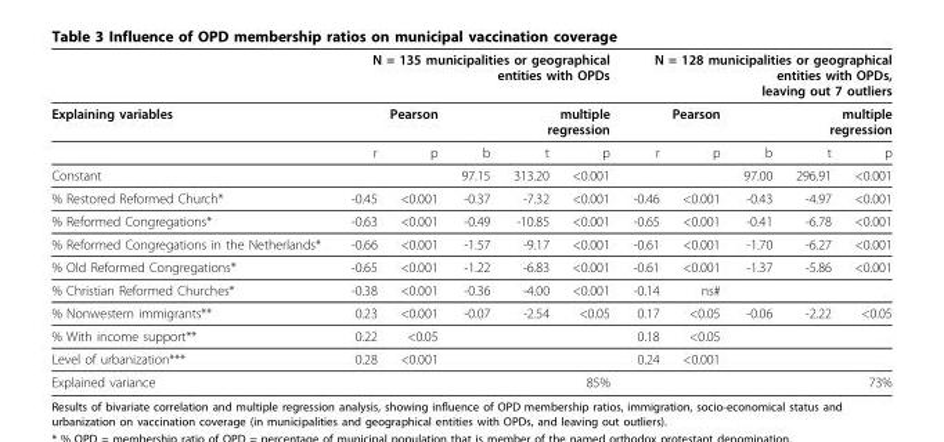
<table><thead><tr><td rowspan="3">Explaining variables</td><td colspan="5">N = 135 municipalities or geographical entities with OPDs</td><td colspan="5">N = 128 municipalities or geographical entities with OPDs, leaving out 7 outliers</td></tr><tr><td colspan="2">Pearson</td><td colspan="3">multiple regression</td><td colspan="2">Pearson</td><td colspan="3">multiple regression</td></tr><tr><td>r</td><td>p</td><td>b</td><td>t</td><td>p</td><td>r</td><td>p</td><td>b</td><td>t</td><td>p</td></tr></thead><tbody><tr><td>Constant</td><td></td><td></td><td>97.15</td><td>313.20</td><td>&lt;0.001</td><td></td><td></td><td>97.00</td><td>296.91</td><td>&lt;0.001</td></tr><tr><td>% Restored Reformed Church*</td><td>-0.45</td><td>&lt;0.001</td><td>-0.37</td><td>-7.32</td><td>&lt;0.001</td><td>-0.46</td><td>&lt;0.001</td><td>-0.43</td><td>-4.97</td><td>&lt;0.001</td></tr><tr><td>% Reformed Congregations*</td><td>-0.63</td><td>&lt;0.001</td><td>-0.49</td><td>-10.85</td><td>&lt;0.001</td><td>-0.65</td><td>&lt;0.001</td><td>-0.41</td><td>-6.78</td><td>&lt;0.001</td></tr><tr><td>% Reformed Congregations in the Netherlands*</td><td>-0.66</td><td>&lt;0.001</td><td>-1.57</td><td>-9.17</td><td>&lt;0.001</td><td>-0.61</td><td>&lt;0.001</td><td>-1.70</td><td>-6.27</td><td>&lt;0.001</td></tr><tr><td>% Old Reformed Congregations*</td><td>-0.65</td><td>&lt;0.001</td><td>-1.22</td><td>-6.83</td><td>&lt;0.001</td><td>-0.61</td><td>&lt;0.001</td><td>-1.37</td><td>-5.86</td><td>&lt;0.001</td></tr><tr><td>% Christian Reformed Churches*</td><td>-0.38</td><td>&lt;0.001</td><td>-0.36</td><td>-4.00</td><td>&lt;0.001</td><td>-0.14</td><td>ns#</td><td></td><td></td><td></td></tr><tr><td>% Nonwestern immigrants**</td><td>0.23</td><td>&lt;0.001</td><td>-0.07</td><td>-2.54</td><td>&lt;0.05</td><td>0.17</td><td>&lt;0.05</td><td>-0.06</td><td>-2.22</td><td>&lt;0.05</td></tr><tr><td>% With income support**</td><td>0.22</td><td>&lt;0.05</td><td></td><td></td><td></td><td>0.18</td><td>&lt;0.05</td><td></td><td></td><td></td></tr><tr><td>Level of urbanization***</td><td>0.28</td><td>&lt;0.001</td><td></td><td></td><td></td><td>0.24</td><td>&lt;0.001</td><td></td><td></td><td></td></tr><tr><td>Explained variance</td><td></td><td></td><td colspan="3">85%</td><td></td><td></td><td colspan="3">73%</td></tr></tbody></table>